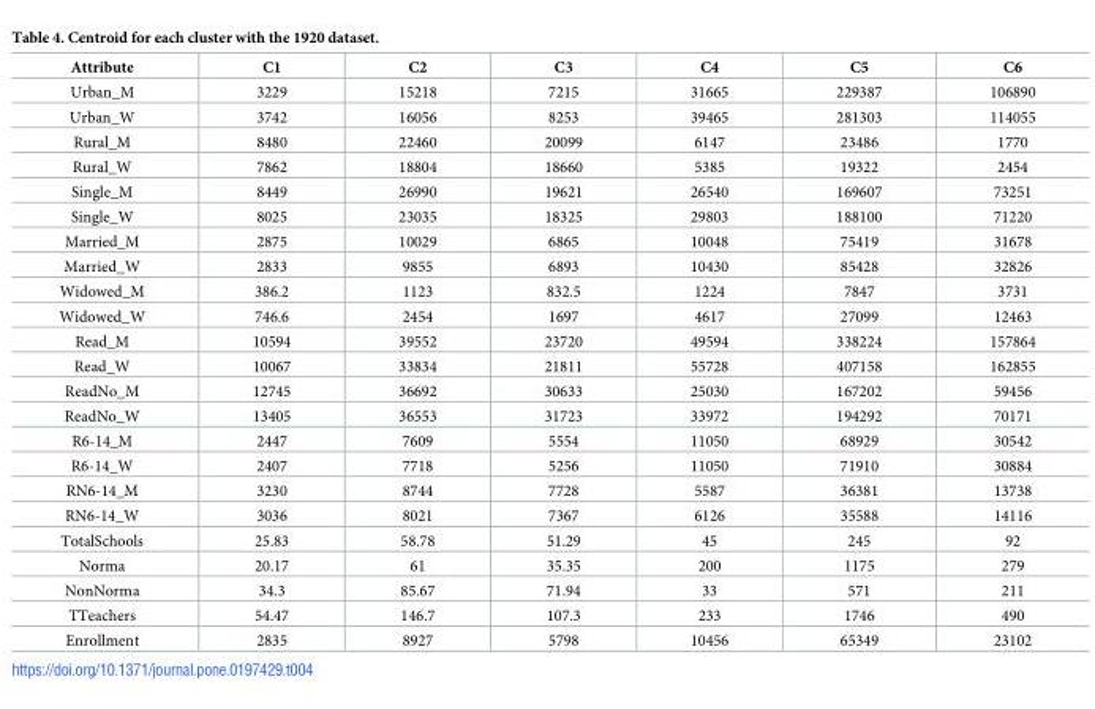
<table><thead><tr><td>Attribute</td><td>C1</td><td>C2</td><td>C3</td><td>C4</td><td>C5</td><td>C6</td></tr></thead><tbody><tr><td>Urban_M</td><td>3229</td><td>15218</td><td>7215</td><td>31665</td><td>229387</td><td>106890</td></tr><tr><td>Urban_W</td><td>3742</td><td>16056</td><td>8253</td><td>39465</td><td>281303</td><td>114055</td></tr><tr><td>Rural_M</td><td>8480</td><td>22460</td><td>20099</td><td>6147</td><td>23486</td><td>1770</td></tr><tr><td>Rural_W</td><td>7862</td><td>18804</td><td>18660</td><td>5385</td><td>19322</td><td>2454</td></tr><tr><td>Single_M</td><td>8449</td><td>26990</td><td>19621</td><td>26540</td><td>169607</td><td>73251</td></tr><tr><td>Single_W</td><td>8025</td><td>23035</td><td>18325</td><td>29803</td><td>188100</td><td>71220</td></tr><tr><td>Married_M</td><td>2875</td><td>10029</td><td>6865</td><td>10048</td><td>75419</td><td>31678</td></tr><tr><td>Married_W</td><td>2833</td><td>9855</td><td>6893</td><td>10430</td><td>85428</td><td>32826</td></tr><tr><td>Widowed_M</td><td>386.2</td><td>1123</td><td>832.5</td><td>1224</td><td>7847</td><td>3731</td></tr><tr><td>Widowed_W</td><td>746.6</td><td>2454</td><td>1697</td><td>4617</td><td>27099</td><td>12463</td></tr><tr><td>Read_M</td><td>10594</td><td>39552</td><td>23720</td><td>49594</td><td>338224</td><td>157864</td></tr><tr><td>Read_W</td><td>10067</td><td>33834</td><td>21811</td><td>55728</td><td>407158</td><td>162855</td></tr><tr><td>ReadNo_M</td><td>12745</td><td>36692</td><td>30633</td><td>25030</td><td>167202</td><td>59456</td></tr><tr><td>ReadNo_W</td><td>13405</td><td>36553</td><td>31723</td><td>33972</td><td>194292</td><td>70171</td></tr><tr><td>R6-14_M</td><td>2447</td><td>7609</td><td>5554</td><td>11050</td><td>68929</td><td>30542</td></tr><tr><td>R6-14_W</td><td>2407</td><td>7718</td><td>5256</td><td>11050</td><td>71910</td><td>30884</td></tr><tr><td>RN6-14_M</td><td>3230</td><td>8744</td><td>7728</td><td>5587</td><td>36381</td><td>13738</td></tr><tr><td>RN6-14_W</td><td>3036</td><td>8021</td><td>7367</td><td>6126</td><td>35588</td><td>14116</td></tr><tr><td>TotalSchools</td><td>25.83</td><td>58.78</td><td>51.29</td><td>45</td><td>245</td><td>92</td></tr><tr><td>Norma</td><td>20.17</td><td>61</td><td>35.35</td><td>200</td><td>1175</td><td>279</td></tr><tr><td>NonNorma</td><td>34.3</td><td>85.67</td><td>71.94</td><td>33</td><td>571</td><td>211</td></tr><tr><td>TTeachers</td><td>54.47</td><td>146.7</td><td>107.3</td><td>233</td><td>1746</td><td>490</td></tr><tr><td>Enrollment</td><td>2835</td><td>8927</td><td>5798</td><td>10456</td><td>65349</td><td>23102</td></tr></tbody></table>